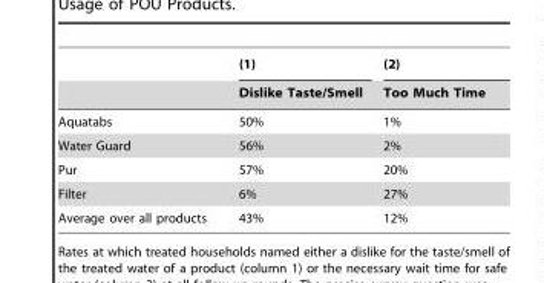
<table><thead><tr><td rowspan="2"></td><td rowspan="2">(1) Dislike Taste/Smell</td><td rowspan="2">(2) Too Much Time</td></tr><tr></tr></thead><tbody><tr><td>Aquatabs</td><td>50%</td><td>1%</td></tr><tr><td>Water Guard</td><td>56%</td><td>2%</td></tr><tr><td>Pur</td><td>57%</td><td>20%</td></tr><tr><td>Filter</td><td>6%</td><td>27%</td></tr><tr><td>Average over all products</td><td>43%</td><td>12%</td></tr></tbody></table>